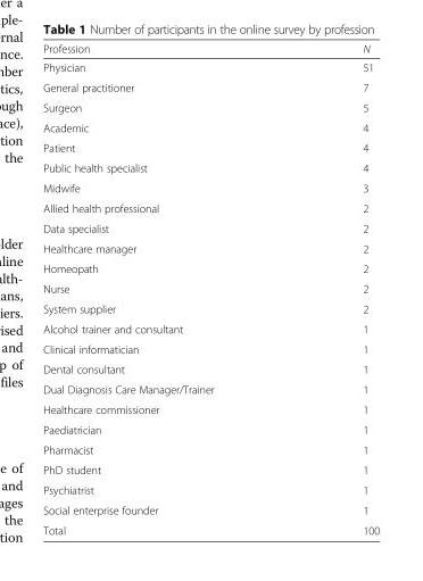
<table><thead><tr><td>Profession</td><td>N</td></tr></thead><tbody><tr><td>Physician</td><td>51</td></tr><tr><td>General practitioner</td><td>7</td></tr><tr><td>Surgeon</td><td>5</td></tr><tr><td>Academic</td><td>4</td></tr><tr><td>Patient</td><td>4</td></tr><tr><td>Public health specialist</td><td>4</td></tr><tr><td>Midwife</td><td>3</td></tr><tr><td>Allied health professional</td><td>2</td></tr><tr><td>Data specialist</td><td>2</td></tr><tr><td>Healthcare manager</td><td>2</td></tr><tr><td>Homeopath</td><td>2</td></tr><tr><td>Nurse</td><td>2</td></tr><tr><td>System supplier</td><td>2</td></tr><tr><td>Alcohol trainer and consultant</td><td>1</td></tr><tr><td>Clinical informatician</td><td>1</td></tr><tr><td>Dental consultant</td><td>1</td></tr><tr><td>Dual Diagnosis Care Manager/Trainer</td><td>1</td></tr><tr><td>Healthcare commissioner</td><td>1</td></tr><tr><td>Paediatrician</td><td>1</td></tr><tr><td>Pharmacist</td><td>1</td></tr><tr><td>PhD student</td><td>1</td></tr><tr><td>Psychiatrist</td><td>1</td></tr><tr><td>Social enterprise founder</td><td>1</td></tr><tr><td>Total</td><td>100</td></tr></tbody></table>